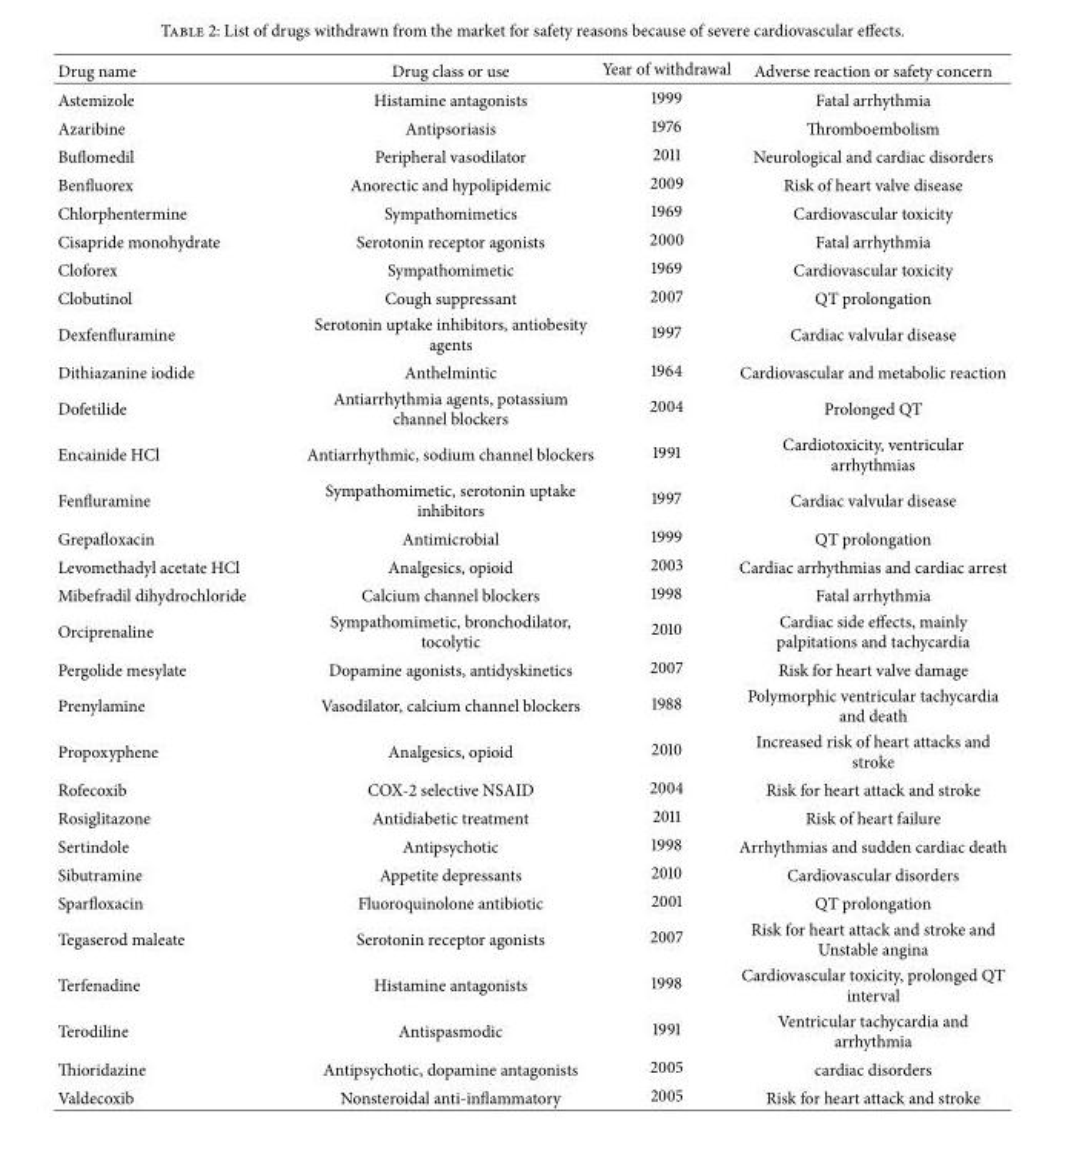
<table><thead><tr><td>Drug name</td><td>Drug class or use</td><td>Year of withdrawal</td><td>Adverse reaction or safety concern</td></tr></thead><tbody><tr><td>Astemizole</td><td>Histamine antagonists</td><td>1999</td><td>Fatal arrhythmia</td></tr><tr><td>Azaribine</td><td>Antipsoriasis</td><td>1976</td><td>Thromboembolism</td></tr><tr><td>Buflomedil</td><td>Peripheral vasodilator</td><td>2011</td><td>Neurological and cardiac disorders</td></tr><tr><td>Benfluorex</td><td>Anorectic and hypolipidemic</td><td>2009</td><td>Risk of heart valve disease</td></tr><tr><td>Chlorphentermine</td><td>Sympathomimetics</td><td>1969</td><td>Cardiovascular toxicity</td></tr><tr><td>Cisapride monohydrate</td><td>Serotonin receptor agonists</td><td>2000</td><td>Fatal arrhythmia</td></tr><tr><td>Cloforex</td><td>Sympathomimetic</td><td>1969</td><td>Cardiovascular toxicity</td></tr><tr><td>Clobutinol</td><td>Cough suppressant</td><td>2007</td><td>QT prolongation</td></tr><tr><td>Dexfenfluramine</td><td>Serotonin uptake inhibitors, antiobesity agents</td><td>1997</td><td>Cardiac valvular disease</td></tr><tr><td>Dithiazanine iodide</td><td>Anthelmintic</td><td>1964</td><td>Cardiovascular and metabolic reaction</td></tr><tr><td>Dofetilide</td><td>Antiarrhythmia agents, potassium channel blockers</td><td>2004</td><td>Prolonged QT</td></tr><tr><td>Encainide HCl</td><td>Antiarrhythmic, sodium channel blockers</td><td>1991</td><td>Cardiotoxicity, ventricular arrhythmias</td></tr><tr><td>Fenfluramine</td><td>Sympathomimetic, serotonin uptake inhibitors</td><td>1997</td><td>Cardiac valvular disease</td></tr><tr><td>Grepafloxacin</td><td>Antimicrobial</td><td>1999</td><td>QT prolongation</td></tr><tr><td>Levomethadyl acetate HCl</td><td>Analgesics, opioid</td><td>2003</td><td>Cardiac arrhythmias and cardiac arrest</td></tr><tr><td>Mibefradil dihydrochloride</td><td>Calcium channel blockers</td><td>1998</td><td>Fatal arrhythmia</td></tr><tr><td>Orciprenaline</td><td>Sympathomimetic, bronchodilator, tocolytic</td><td>2010</td><td>Cardiac side effects, mainly palpitations and tachycardia</td></tr><tr><td>Pergolide mesylate</td><td>Dopamine agonists, antidyskinetics</td><td>2007</td><td>Risk for heart valve damage</td></tr><tr><td>Prenylamine</td><td>Vasodilator, calcium channel blockers</td><td>1988</td><td>Polymorphic ventricular tachycardia and death</td></tr><tr><td>Propoxyphene</td><td>Analgesics, opioid</td><td>2010</td><td>Increased risk of heart attacks and stroke</td></tr><tr><td>Rofecoxib</td><td>COX-2 selective NSAID</td><td>2004</td><td>Risk for heart attack and stroke</td></tr><tr><td>Rosiglitazone</td><td>Antidiabetic treatment</td><td>2011</td><td>Risk of heart failure</td></tr><tr><td>Sertindole</td><td>Antipsychotic</td><td>1998</td><td>Arrhythmias and sudden cardiac death</td></tr><tr><td>Sibutramine</td><td>Appetite depressants</td><td>2010</td><td>Cardiovascular disorders</td></tr><tr><td>Sparfloxacin</td><td>Fluoroquinolone antibiotic</td><td>2001</td><td>QT prolongation</td></tr><tr><td>Tegaserod maleate</td><td>Serotonin receptor agonists</td><td>2007</td><td>Risk for heart attack and stroke and Unstable angina</td></tr><tr><td>Terfenadine</td><td>Histamine antagonists</td><td>1998</td><td>Cardiovascular toxicity, prolonged QT interval</td></tr><tr><td>Terodiline</td><td>Antispasmodic</td><td>1991</td><td>Ventricular tachycardia and arrhythmia</td></tr><tr><td>Thioridazine</td><td>Antipsychotic, dopamine antagonists</td><td>2005</td><td>cardiac disorders</td></tr><tr><td>Valdecoxib</td><td>Nonsteroidal anti-inflammatory</td><td>2005</td><td>Risk for heart attack and stroke</td></tr></tbody></table>